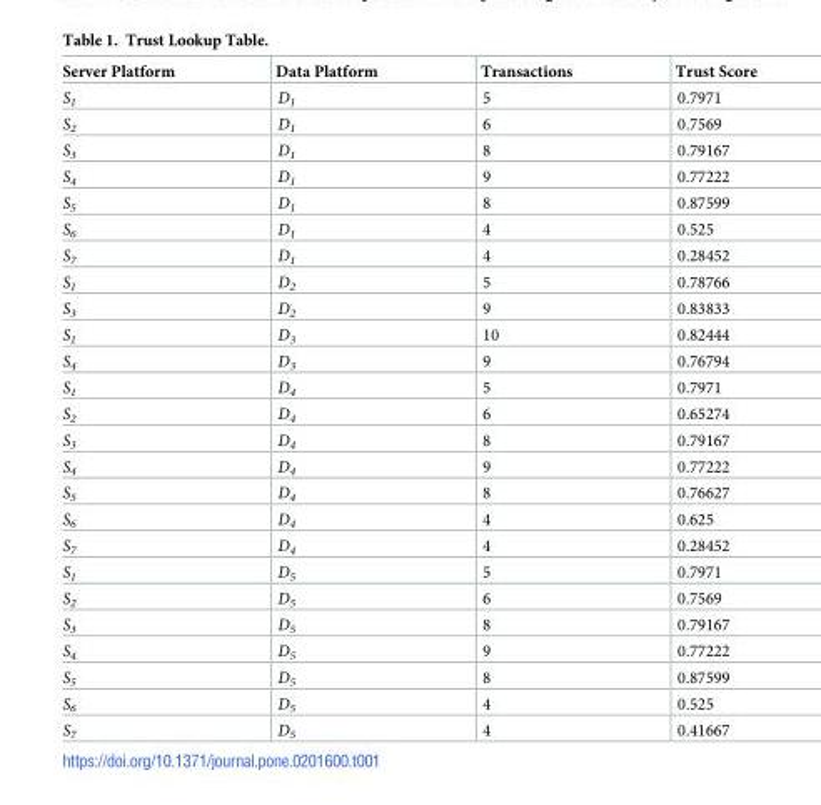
<table><thead><tr><td>Server Platform</td><td>Data Platform</td><td>Transactions</td><td>Trust Score</td></tr></thead><tbody><tr><td>S<sub>1</sub></td><td>D<sub>1</sub></td><td>5</td><td>0.7971</td></tr><tr><td>S<sub>2</sub></td><td>D<sub>1</sub></td><td>6</td><td>0.7569</td></tr><tr><td>S<sub>3</sub></td><td>D<sub>1</sub></td><td>8</td><td>0.79167</td></tr><tr><td>S<sub>4</sub></td><td>D<sub>1</sub></td><td>9</td><td>0.77222</td></tr><tr><td>S<sub>5</sub></td><td>D<sub>1</sub></td><td>8</td><td>0.87599</td></tr><tr><td>S<sub>6</sub></td><td>D<sub>1</sub></td><td>4</td><td>0.525</td></tr><tr><td>S<sub>7</sub></td><td>D<sub>1</sub></td><td>4</td><td>0.28452</td></tr><tr><td>S<sub>1</sub></td><td>D<sub>2</sub></td><td>5</td><td>0.78766</td></tr><tr><td>S<sub>3</sub></td><td>D<sub>2</sub></td><td>9</td><td>0.83833</td></tr><tr><td>S<sub>1</sub></td><td>D<sub>3</sub></td><td>10</td><td>0.82444</td></tr><tr><td>S<sub>4</sub></td><td>D<sub>3</sub></td><td>9</td><td>0.76794</td></tr><tr><td>S<sub>1</sub></td><td>D<sub>4</sub></td><td>5</td><td>0.7971</td></tr><tr><td>S<sub>2</sub></td><td>D<sub>4</sub></td><td>6</td><td>0.65274</td></tr><tr><td>S<sub>3</sub></td><td>D<sub>4</sub></td><td>8</td><td>0.79167</td></tr><tr><td>S<sub>4</sub></td><td>D<sub>4</sub></td><td>9</td><td>0.77222</td></tr><tr><td>S<sub>5</sub></td><td>D<sub>4</sub></td><td>8</td><td>0.76627</td></tr><tr><td>S<sub>6</sub></td><td>D<sub>4</sub></td><td>4</td><td>0.625</td></tr><tr><td>S<sub>7</sub></td><td>D<sub>4</sub></td><td>4</td><td>0.28452</td></tr><tr><td>S<sub>1</sub></td><td>D<sub>5</sub></td><td>5</td><td>0.7971</td></tr><tr><td>S<sub>2</sub></td><td>D<sub>5</sub></td><td>6</td><td>0.7569</td></tr><tr><td>S<sub>3</sub></td><td>D<sub>5</sub></td><td>8</td><td>0.79167</td></tr><tr><td>S<sub>4</sub></td><td>D<sub>5</sub></td><td>9</td><td>0.77222</td></tr><tr><td>S<sub>5</sub></td><td>D<sub>5</sub></td><td>8</td><td>0.87599</td></tr><tr><td>S<sub>6</sub></td><td>D<sub>5</sub></td><td>4</td><td>0.525</td></tr><tr><td>S<sub>7</sub></td><td>D<sub>5</sub></td><td>4</td><td>0.41667</td></tr></tbody></table>